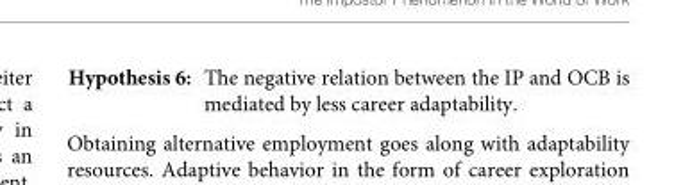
<table><tbody><tr><td>Hypothesis 6:</td><td>The negative relation between the IP and OCB is mediated by less career adaptability.</td></tr></tbody></table>